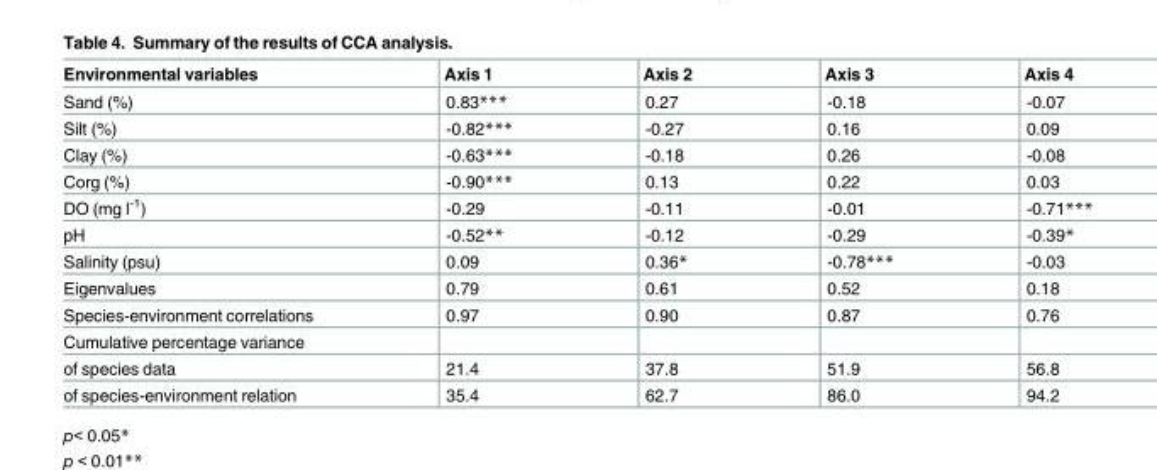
<table><thead><tr><td>Environmental variables</td><td>Axis 1</td><td>Axis 2</td><td>Axis 3</td><td>Axis 4</td></tr></thead><tbody><tr><td>Sand (%)</td><td>0.83***</td><td>0.27</td><td>-0.18</td><td>-0.07</td></tr><tr><td>Silt (%)</td><td>-0.82***</td><td>-0.27</td><td>0.16</td><td>0.09</td></tr><tr><td>Clay (%)</td><td>-0.63***</td><td>-0.18</td><td>0.26</td><td>-0.08</td></tr><tr><td>Corg (%)</td><td>-0.90***</td><td>0.13</td><td>0.22</td><td>0.03</td></tr><tr><td>DO (mg l<sup>-1</sup>)</td><td>-0.29</td><td>-0.11</td><td>-0.01</td><td>-0.71***</td></tr><tr><td>pH</td><td>-0.52**</td><td>-0.12</td><td>-0.29</td><td>-0.39*</td></tr><tr><td>Salinity (psu)</td><td>0.09</td><td>0.36*</td><td>-0.78***</td><td>-0.03</td></tr><tr><td>Eigenvalues</td><td>0.79</td><td>0.61</td><td>0.52</td><td>0.18</td></tr><tr><td>Species-environment correlations</td><td>0.97</td><td>0.90</td><td>0.87</td><td>0.76</td></tr><tr><td colspan="5">Cumulative percentage variance</td></tr><tr><td>of species data</td><td>21.4</td><td>37.8</td><td>51.9</td><td>56.8</td></tr><tr><td>of species-environment relation</td><td>35.4</td><td>62.7</td><td>86.0</td><td>94.2</td></tr></tbody></table>